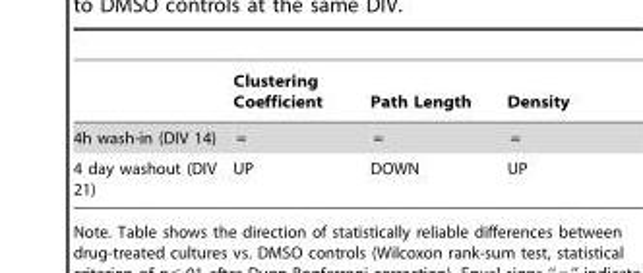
<table><thead><tr><td></td><td>Clustering Coefficient</td><td>Path Length</td><td>Density</td></tr></thead><tbody><tr><td>4h wash-in (DIV 14)</td><td>=</td><td>=</td><td>=</td></tr><tr><td>4 day washout (DIV 21)</td><td>UP</td><td>DOWN</td><td>UP</td></tr></tbody></table>